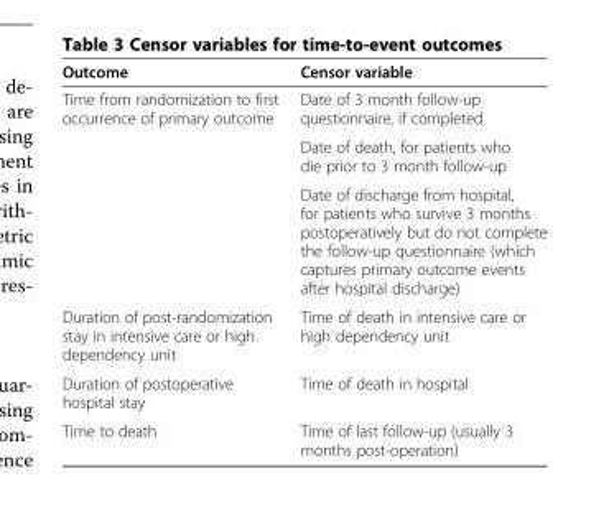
<table><thead><tr><td>Outcome</td><td>Censor variable</td></tr></thead><tbody><tr><td rowspan="3">Time from randomization to first occurrence of primary outcome</td><td>Date of 3 month follow-up questionnaire, if completed</td></tr><tr><td>Date of death, for patients who die prior to 3 month follow-up</td></tr><tr><td>Date of discharge from hospital, for patients who survive 3 months postoperatively but do not complete the follow-up questionnaire (which captures primary outcome events after hospital discharge)</td></tr><tr><td>Duration of post-randomization stay in intensive care or high dependency unit</td><td>Time of death in intensive care or high dependency unit</td></tr><tr><td>Duration of postoperative hospital stay</td><td>Time of death in hospital</td></tr><tr><td>Time to death</td><td>Time of last follow-up (usually 3 months post-operation)</td></tr></tbody></table>